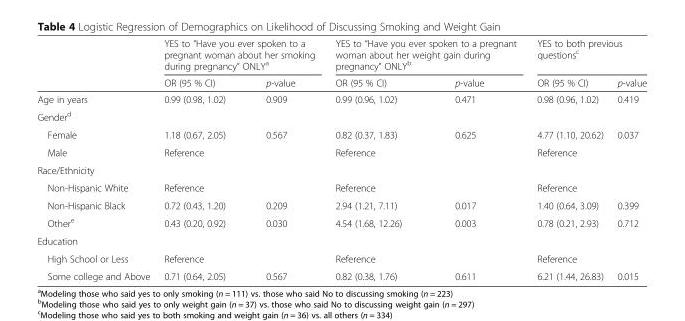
<table><thead><tr><td rowspan="2"></td><td colspan="2">YES to “Have you ever spoken to a pregnant woman about her smoking during pregnancy” ONLY<sup>a</sup></td><td colspan="2">YES to “Have you ever spoken to a pregnant woman about her weight gain during pregnancy” ONLY<sup>b</sup></td><td colspan="2">YES to both previous questions<sup>c</sup></td></tr><tr><td>OR (95 % CI)</td><td>p-value</td><td>OR (95 % CI)</td><td>p-value</td><td>OR (95 % CI)</td><td>p-value</td></tr></thead><tbody><tr><td>Age in years</td><td>0.99 (0.98, 1.02)</td><td>0.909</td><td>0.99 (0.96, 1.02)</td><td>0.471</td><td>0.98 (0.96, 1.02)</td><td>0.419</td></tr><tr><td colspan="7">Gender<sup>d</sup></td></tr><tr><td>Female</td><td>1.18 (0.67, 2.05)</td><td>0.567</td><td>0.82 (0.37, 1.83)</td><td>0.625</td><td>4.77 (1.10, 20.62)</td><td>0.037</td></tr><tr><td>Male</td><td>Reference</td><td></td><td>Reference</td><td></td><td>Reference</td><td></td></tr><tr><td colspan="7">Race/Ethnicity</td></tr><tr><td>Non-Hispanic White</td><td>Reference</td><td></td><td>Reference</td><td></td><td>Reference</td><td></td></tr><tr><td>Non-Hispanic Black</td><td>0.72 (0.43, 1.20)</td><td>0.209</td><td>2.94 (1.21, 7.11)</td><td>0.017</td><td>1.40 (0.64, 3.09)</td><td>0.399</td></tr><tr><td>Other<sup>e</sup></td><td>0.43 (0.20, 0.92)</td><td>0.030</td><td>4.54 (1.68, 12.26)</td><td>0.003</td><td>0.78 (0.21, 2.93)</td><td>0.712</td></tr><tr><td colspan="7">Education</td></tr><tr><td>High School or Less</td><td>Reference</td><td></td><td>Reference</td><td></td><td>Reference</td><td></td></tr><tr><td>Some college and Above</td><td>0.71 (0.64, 2.05)</td><td>0.567</td><td>0.82 (0.38, 1.76)</td><td>0.611</td><td>6.21 (1.44, 26.83)</td><td>0.015</td></tr></tbody></table>